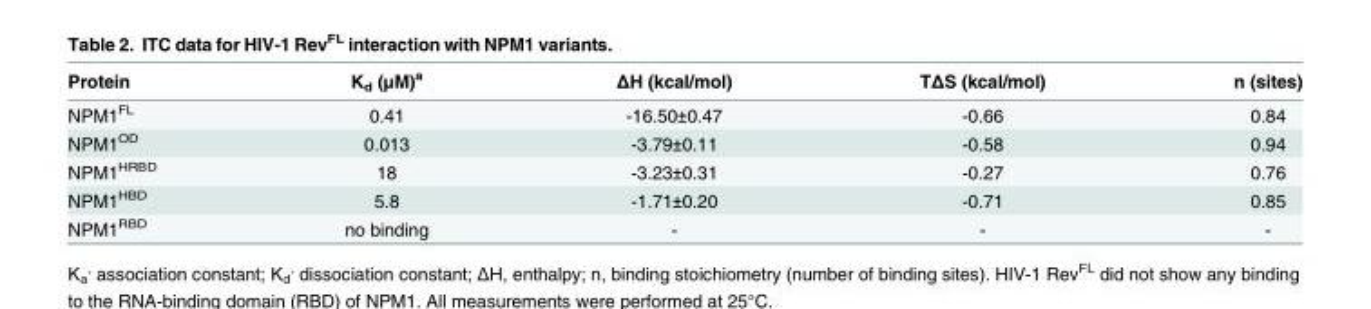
<table><thead><tr><td>Protein</td><td>K<sub>d</sub> (μM)<sup>a</sup></td><td>ΔH (kcal/mol)</td><td>TΔS (kcal/mol)</td><td>n (sites)</td></tr></thead><tbody><tr><td>NPM1<sup>FL</sup></td><td>0.41</td><td>-16.50±0.47</td><td>-0.66</td><td>0.84</td></tr><tr><td>NPM1<sup>OD</sup></td><td>0.013</td><td>-3.79±0.11</td><td>-0.58</td><td>0.94</td></tr><tr><td>NPM1<sup>HRBD</sup></td><td>18</td><td>-3.23±0.31</td><td>-0.27</td><td>0.76</td></tr><tr><td>NPM1<sup>HBD</sup></td><td>5.8</td><td>-1.71±0.20</td><td>-0.71</td><td>0.85</td></tr><tr><td>NPM1<sup>RBD</sup></td><td>no binding</td><td>-</td><td>-</td><td>-</td></tr></tbody></table>